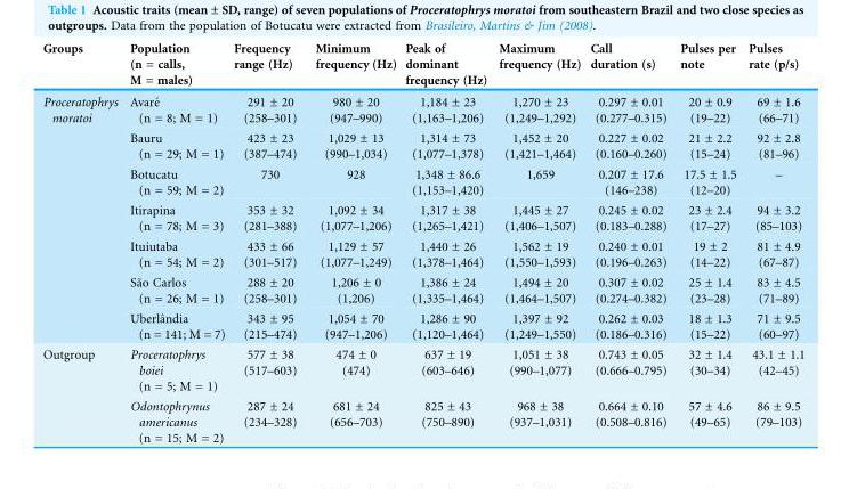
<table><thead><tr><td>Groups</td><td>Population (n = calls, M = males)</td><td>Frequency range (Hz)</td><td>Minimum frequency (Hz)</td><td>Peak of dominant frequency (Hz)</td><td>Maximum frequency (Hz)</td><td>Call duration (s)</td><td>Pulses per note</td><td>Pulses rate (p/s)</td></tr></thead><tbody><tr><td rowspan="7">Proceratophrys moratoi</td><td>Avare´ (n = 8; M = 1)</td><td>291 ± 20 (258–301)</td><td>980 ± 20 (947–990)</td><td>1,184 ± 23 (1,163–1,206)</td><td>1,270 ± 23 (1,249–1,292)</td><td>0.297 ± 0.01 (0.277–0.315)</td><td>20 ± 0.9 (19–22)</td><td>69 ± 1.6 (66–71)</td></tr><tr><td>Bauru (n = 29; M = 1)</td><td>423 ± 23 (387–474)</td><td>1,029 ± 13 (990–1,034)</td><td>1,314 ± 73 (1,077–1,378)</td><td>1,452 ± 20 (1,421–1,464)</td><td>0.227 ± 0.02 (0.160–0.260)</td><td>21 ± 2.2 (15–24)</td><td>92 ± 2.8 (81–96)</td></tr><tr><td>Botucatu (n = 59; M = 2)</td><td>730</td><td>928</td><td>1,348 ± 86.6 (1,153–1,420)</td><td>1,659</td><td>0.207 ± 17.6 (146–238)</td><td>17.5 ± 1.5 (12–20)</td><td>–</td></tr><tr><td>Itirapina (n = 78; M = 3)</td><td>353 ± 32 (281–388)</td><td>1,092 ± 34 (1,077–1,206)</td><td>1,317 ± 38 (1,265–1,421)</td><td>1,445 ± 27 (1,406–1,507)</td><td>0.245 ± 0.02 (0.183–0.288)</td><td>23 ± 2.4 (17–27)</td><td>94 ± 3.2 (85–103)</td></tr><tr><td>Ituiutaba (n = 54; M = 2)</td><td>433 ± 66 (301–517)</td><td>1,129 ± 57 (1,077–1,249)</td><td>1,440 ± 26 (1,378–1,464)</td><td>1,562 ± 19 (1,550–1,593)</td><td>0.240 ± 0.01 (0.196–0.263)</td><td>19 ± 2 (14–22)</td><td>81 ± 4.9 (67–87)</td></tr><tr><td>Sa˜o Carlos (n = 26; M = 1)</td><td>288 ± 20 (258–301)</td><td>1,206 ± 0 (1,206)</td><td>1,386 ± 24 (1,335–1,464)</td><td>1,494 ± 20 (1,464–1,507)</td><td>0.307 ± 0.02 (0.274–0.382)</td><td>25 ± 1.4 (23–28)</td><td>83 ± 4.5 (71–89)</td></tr><tr><td>Uberlaˆndia (n = 141; M = 7)</td><td>343 ± 95 (215–474)</td><td>1,054 ± 70 (947–1,206)</td><td>1,286 ± 90 (1,120–1,464)</td><td>1,397 ± 92 (1,249–1,550)</td><td>0.262 ± 0.03 (0.186–0.316)</td><td>18 ± 1.3 (15–22)</td><td>71 ± 9.5 (60–97)</td></tr><tr><td rowspan="2">Outgroup</td><td>Proceratophrys boiei (n = 5; M = 1)</td><td>577 ± 38 (517–603)</td><td>474 ± 0 (474)</td><td>637 ± 19 (603–646)</td><td>1,051 ± 38 (990–1,077)</td><td>0.743 ± 0.05 (0.666–0.795)</td><td>32 ± 1.4 (30–34)</td><td>43.1 ± 1.1 (42–45)</td></tr><tr><td>Odontophrynus americanus (n = 15; M = 2)</td><td>287 ± 24 (234–328)</td><td>681 ± 24 (656–703)</td><td>825 ± 43 (750–890)</td><td>968 ± 38 (937–1,031)</td><td>0.664 ± 0.10 (0.508–0.816)</td><td>57 ± 4.6 (49–65)</td><td>86 ± 9.5 (79–103)</td></tr></tbody></table>